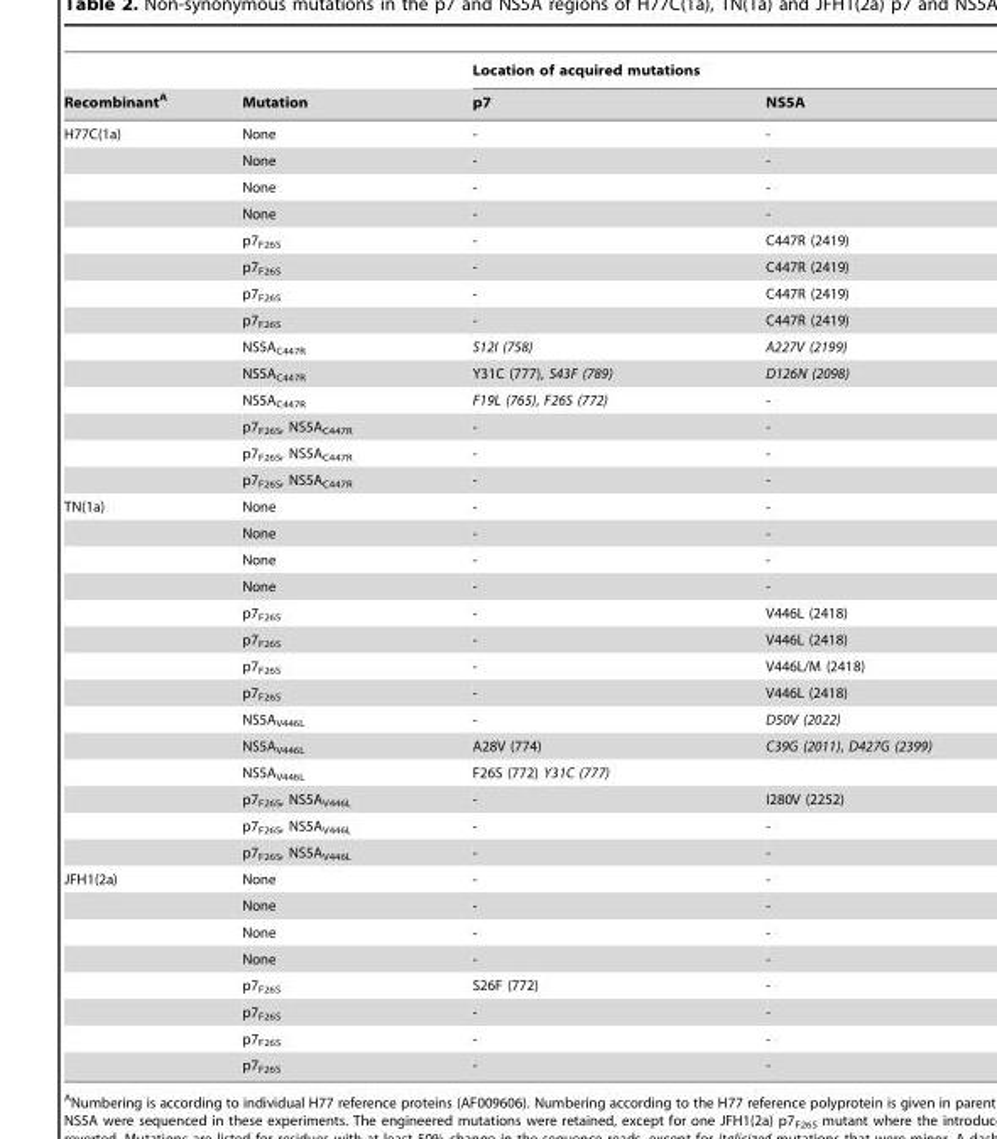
<table><thead><tr><td rowspan="2">Recombinant<sup>A</sup></td><td rowspan="2">Mutation</td><td colspan="2">Location of acquired mutations</td></tr><tr><td>p7</td><td>NS5A</td></tr></thead><tbody><tr><td rowspan="14">H77C(1a)</td><td>None</td><td>-</td><td>-</td></tr><tr><td>None</td><td>-</td><td>-</td></tr><tr><td>None</td><td>-</td><td>-</td></tr><tr><td>None</td><td>-</td><td>-</td></tr><tr><td>p7<sub>F26S</sub></td><td>-</td><td>C447R (2419)</td></tr><tr><td>p7<sub>F26S</sub></td><td>-</td><td>C447R (2419)</td></tr><tr><td>p7<sub>F26S</sub></td><td>-</td><td>C447R (2419)</td></tr><tr><td>p7<sub>F26S</sub></td><td>-</td><td>C447R (2419)</td></tr><tr><td>NS5A<sub>C447R</sub></td><td>S12I (758)</td><td>A227V (2199)</td></tr><tr><td>NS5A<sub>C447R</sub></td><td>Y31C (777), S43F (789)</td><td>D126N (2098)</td></tr><tr><td>NS5A<sub>C447R</sub></td><td>F19L (765), F26S (772)</td><td>-</td></tr><tr><td>p7<sub>F26S</sub>, NS5A<sub>C447R</sub></td><td>-</td><td>-</td></tr><tr><td>p7<sub>F26S</sub>, NS5A<sub>C447R</sub></td><td>-</td><td>-</td></tr><tr><td>p7<sub>F26S</sub>, NS5A<sub>C447R</sub></td><td>-</td><td>-</td></tr><tr><td rowspan="14">TN(1a)</td><td>None</td><td>-</td><td>-</td></tr><tr><td>None</td><td>-</td><td>-</td></tr><tr><td>None</td><td>-</td><td>-</td></tr><tr><td>None</td><td>-</td><td>-</td></tr><tr><td>p7<sub>F26S</sub></td><td>-</td><td>V446L (2418)</td></tr><tr><td>p7<sub>F26S</sub></td><td>-</td><td>V446L (2418)</td></tr><tr><td>p7<sub>F26S</sub></td><td>-</td><td>V446L/M (2418)</td></tr><tr><td>p7<sub>F26S</sub></td><td>-</td><td>V446L (2418)</td></tr><tr><td>NS5A<sub>V446L</sub></td><td>-</td><td>D50V (2022)</td></tr><tr><td>NS5A<sub>V446L</sub></td><td>A28V (774)</td><td>C39G (2011), D427G (2399)</td></tr><tr><td>NS5A<sub>V446L</sub></td><td>F26S (772) Y31C (777)</td><td></td></tr><tr><td>p7<sub>F26S</sub>, NS5A<sub>V446L</sub></td><td>-</td><td>I280V (2252)</td></tr><tr><td>p7<sub>F26S</sub>, NS5A<sub>V446L</sub></td><td>-</td><td>-</td></tr><tr><td>p7<sub>F26S</sub>, NS5A<sub>V446L</sub></td><td>-</td><td>-</td></tr><tr><td rowspan="8">JFH1(2a)</td><td>None</td><td>-</td><td>-</td></tr><tr><td>None</td><td>-</td><td>-</td></tr><tr><td>None</td><td>-</td><td>-</td></tr><tr><td>None</td><td>-</td><td>-</td></tr><tr><td>p7<sub>F26S</sub></td><td>S26F (772)</td><td>-</td></tr><tr><td>p7<sub>F26S</sub></td><td>-</td><td>-</td></tr><tr><td>p7<sub>F26S</sub></td><td>-</td><td>-</td></tr><tr><td>p7<sub>F26S</sub></td><td>-</td><td>-</td></tr></tbody></table>